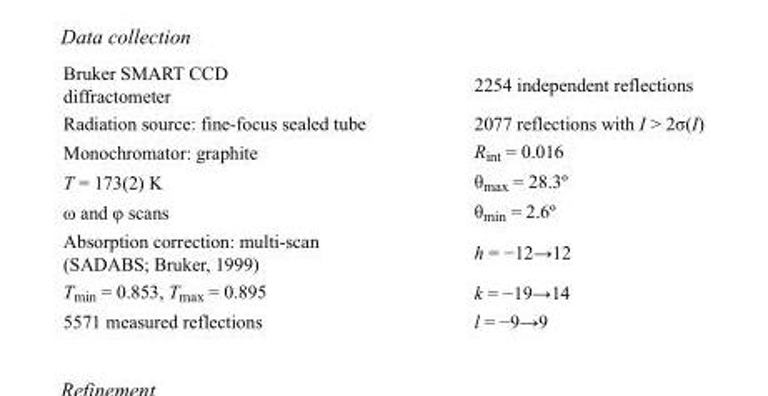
<table><tbody><tr><td>Bruker SMART CCD diffractometer</td><td>2254 independent reflections</td></tr><tr><td>Radiation source: fine-focus sealed tube</td><td>2077 reflections with I &gt; 2σ(I)</td></tr><tr><td>Monochromator: graphite</td><td>R<sub>int</sub> = 0.016</td></tr><tr><td>T = 173(2) K</td><td>θ<sub>max</sub> = 28.3º</td></tr><tr><td>ω and φ scans</td><td>θ<sub>min</sub> = 2.6º</td></tr><tr><td>Absorption correction: multi-scan (SADABS; Bruker, 1999)</td><td>h = −12→12</td></tr><tr><td>T<sub>min</sub> = 0.853, T<sub>max</sub> = 0.895</td><td>k = −19→14</td></tr><tr><td>5571 measured reflections</td><td>l = −9→9</td></tr></tbody></table>